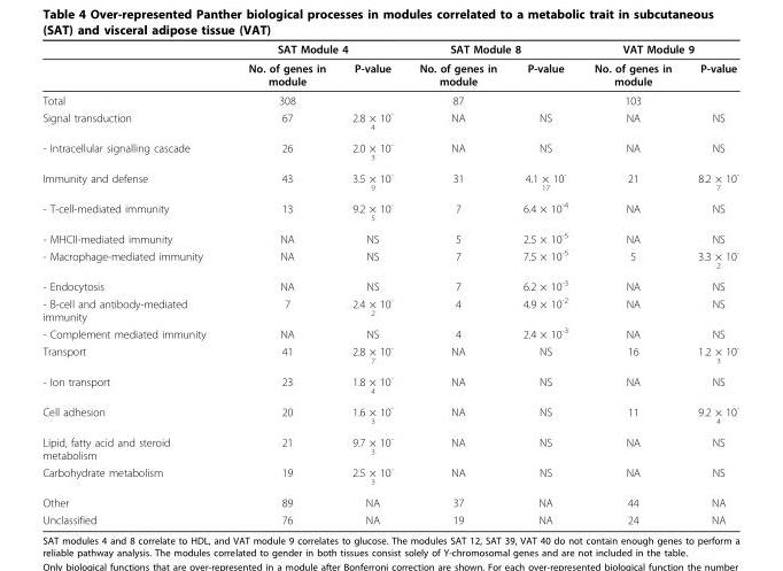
<table><thead><tr><td rowspan="2"></td><td colspan="2">SAT Module 4</td><td colspan="2">SAT Module 8</td><td colspan="2">VAT Module 9</td></tr><tr><td>No. of genes in module</td><td>P-value</td><td>No. of genes in module</td><td>P-value</td><td>No. of genes in module</td><td>P-value</td></tr></thead><tbody><tr><td>Total</td><td>308</td><td></td><td>87</td><td></td><td>103</td><td></td></tr><tr><td>Signal transduction</td><td>67</td><td>2.8 × 10<sup>- 4</sup></td><td>NA</td><td>NS</td><td>NA</td><td>NS</td></tr><tr><td>- Intracellular signalling cascade</td><td>26</td><td>2.0 × 10<sup>- 3</sup></td><td>NA</td><td>NS</td><td>NA</td><td>NS</td></tr><tr><td>Immunity and defense</td><td>43</td><td>3.5 × 10<sup>- 9</sup></td><td>31</td><td>4.1 × 10<sup>- 17</sup></td><td>21</td><td>8.2 × 10<sup>- 7</sup></td></tr><tr><td>- T-cell-mediated immunity</td><td>13</td><td>9.2 × 10<sup>- 5</sup></td><td>7</td><td>6.4 × 10<sup>-4</sup></td><td>NA</td><td>NS</td></tr><tr><td>- MHCII-mediated immunity</td><td>NA</td><td>NS</td><td>5</td><td>2.5 × 10<sup>-5</sup></td><td>NA</td><td>NS</td></tr><tr><td>- Macrophage-mediated immunity</td><td>NA</td><td>NS</td><td>7</td><td>7.5 × 10<sup>-5</sup></td><td>5</td><td>3.3 × 10<sup>- 2</sup></td></tr><tr><td>- Endocytosis</td><td>NA</td><td>NS</td><td>7</td><td>6.2 × 10<sup>-3</sup></td><td>NA</td><td>NS</td></tr><tr><td>- B-cell and antibody-mediated immunity</td><td>7</td><td>2.4 × 10<sup>- 2</sup></td><td>4</td><td>4.9 × 10<sup>-2</sup></td><td>NA</td><td>NS</td></tr><tr><td>- Complement mediated immunity</td><td>NA</td><td>NS</td><td>4</td><td>2.4 × 10<sup>-3</sup></td><td>NA</td><td>NS</td></tr><tr><td>Transport</td><td>41</td><td>2.8 × 10<sup>- 7</sup></td><td>NA</td><td>NS</td><td>16</td><td>1.2 × 10<sup>- 3</sup></td></tr><tr><td>- Ion transport</td><td>23</td><td>1.8 × 10<sup>- 4</sup></td><td>NA</td><td>NS</td><td>NA</td><td>NS</td></tr><tr><td>Cell adhesion</td><td>20</td><td>1.6 × 10<sup>- 3</sup></td><td>NA</td><td>NS</td><td>11</td><td>9.2 × 10<sup>- 4</sup></td></tr><tr><td>Lipid, fatty acid and steroid metabolism</td><td>21</td><td>9.7 × 10<sup>- 3</sup></td><td>NA</td><td>NS</td><td>NA</td><td>NS</td></tr><tr><td>Carbohydrate metabolism</td><td>19</td><td>2.5 × 10<sup>- 3</sup></td><td>NA</td><td>NS</td><td>NA</td><td>NS</td></tr><tr><td>Other</td><td>89</td><td>NA</td><td>37</td><td>NA</td><td>44</td><td>NA</td></tr><tr><td>Unclassified</td><td>76</td><td>NA</td><td>19</td><td>NA</td><td>24</td><td>NA</td></tr></tbody></table>